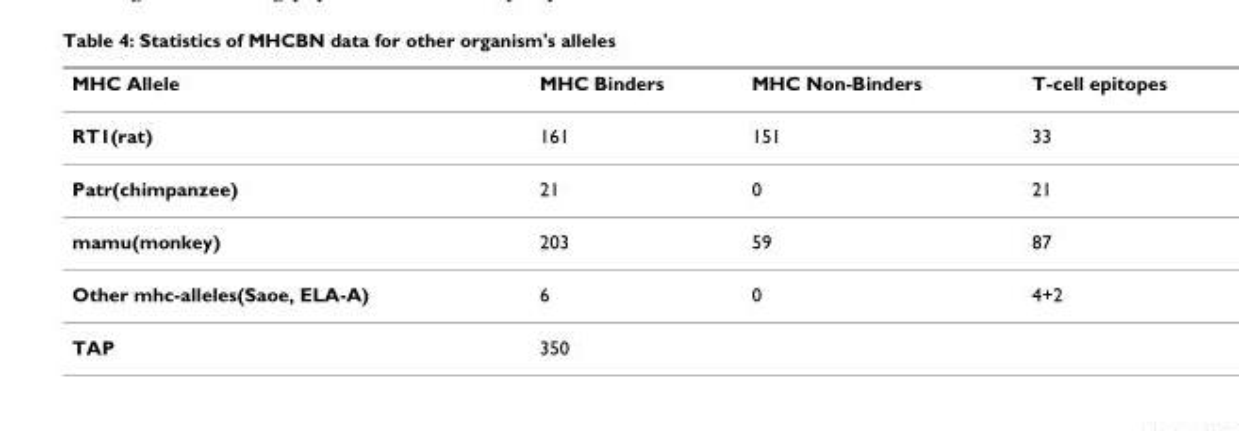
<table><thead><tr><td>MHC Allele</td><td>MHC Binders</td><td>MHC Non-Binders</td><td>T-cell epitopes</td></tr></thead><tbody><tr><td>RT1(rat)</td><td>161</td><td>151</td><td>33</td></tr><tr><td>Patr(chimpanzee)</td><td>21</td><td>0</td><td>21</td></tr><tr><td>mamu(monkey)</td><td>203</td><td>59</td><td>87</td></tr><tr><td>Other mhc-alleles(Saoe, ELA-A)</td><td>6</td><td>0</td><td>4+2</td></tr><tr><td>TAP</td><td>350</td><td></td><td></td></tr></tbody></table>